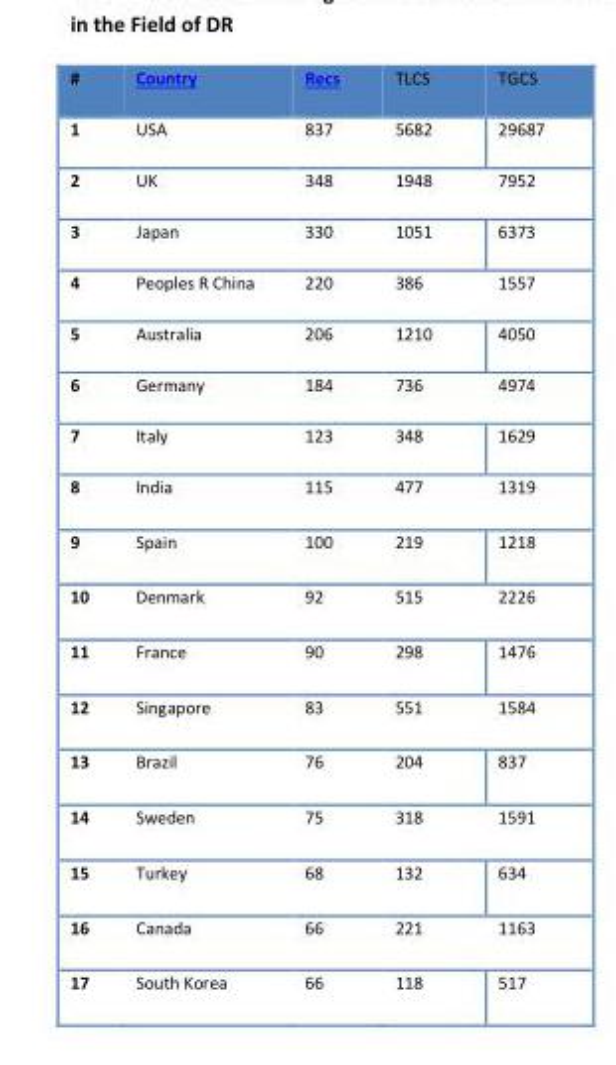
<table><tbody><tr><td>#</td><td>Country</td><td>Recs</td><td>TLCS</td><td>TGCS</td></tr><tr><td>1</td><td>USA</td><td>837</td><td>5682</td><td>29687</td></tr><tr><td>2</td><td>UK</td><td>348</td><td>1948</td><td>7952</td></tr><tr><td>3</td><td>Japan</td><td>330</td><td>1051</td><td>6373</td></tr><tr><td>4</td><td>Peoples R China</td><td>220</td><td>386</td><td>1557</td></tr><tr><td>5</td><td>Australia</td><td>206</td><td>1210</td><td>4050</td></tr><tr><td>6</td><td>Germany</td><td>184</td><td>736</td><td>4974</td></tr><tr><td>7</td><td>Italy</td><td>123</td><td>348</td><td>1629</td></tr><tr><td>8</td><td>India</td><td>115</td><td>477</td><td>1319</td></tr><tr><td>9</td><td>Spain</td><td>100</td><td>219</td><td>1218</td></tr><tr><td>10</td><td>Denmark</td><td>92</td><td>515</td><td>2226</td></tr><tr><td>11</td><td>France</td><td>90</td><td>298</td><td>1476</td></tr><tr><td>12</td><td>Singapore</td><td>83</td><td>551</td><td>1584</td></tr><tr><td>13</td><td>Brazil</td><td>76</td><td>204</td><td>837</td></tr><tr><td>14</td><td>Sweden</td><td>75</td><td>318</td><td>1591</td></tr><tr><td>15</td><td>Turkey</td><td>68</td><td>132</td><td>634</td></tr><tr><td>16</td><td>Canada</td><td>66</td><td>221</td><td>1163</td></tr><tr><td>17</td><td>South Korea</td><td>66</td><td>118</td><td>517</td></tr></tbody></table>